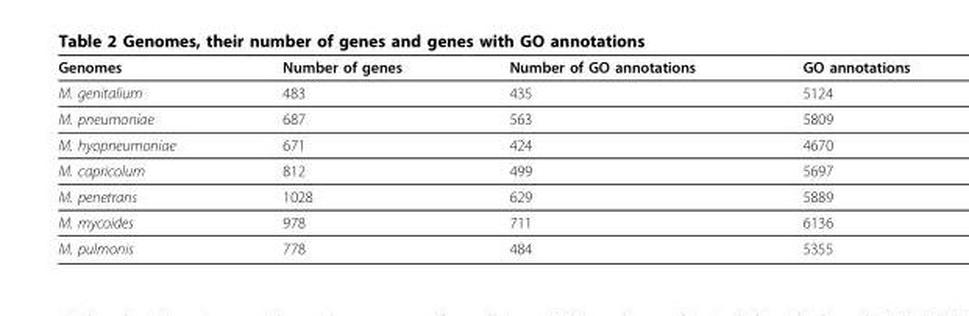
<table><thead><tr><td>Genomes</td><td>Number of genes</td><td>Number of GO annotations</td><td>GO annotations</td></tr></thead><tbody><tr><td>M. genitalium</td><td>483</td><td>435</td><td>5124</td></tr><tr><td>M. pneumoniae</td><td>687</td><td>563</td><td>5809</td></tr><tr><td>M. hyopneumoniae</td><td>671</td><td>424</td><td>4670</td></tr><tr><td>M. capricolum</td><td>812</td><td>499</td><td>5697</td></tr><tr><td>M. penetrans</td><td>1028</td><td>629</td><td>5889</td></tr><tr><td>M. mycoides</td><td>978</td><td>711</td><td>6136</td></tr><tr><td>M. pulmonis</td><td>778</td><td>484</td><td>5355</td></tr></tbody></table>